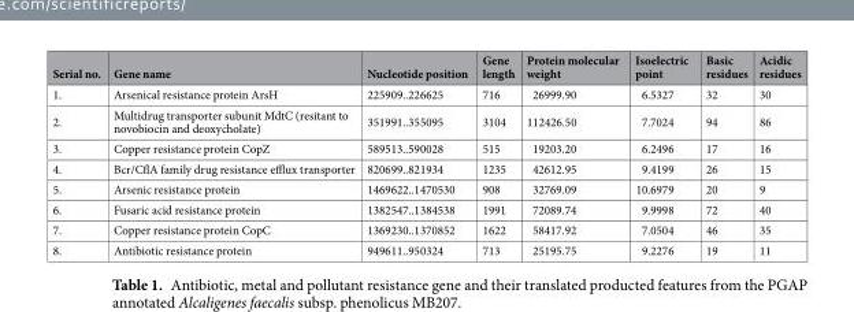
<table><thead><tr><td>Serial no.</td><td>Gene name</td><td>Nucleotide position</td><td>Gene length</td><td>Protein molecular weight</td><td>Isoelectric point</td><td>Basic residues</td><td>Acidic residues</td></tr></thead><tbody><tr><td>1.</td><td>Arsenical resistance protein ArsH</td><td>225909..226625</td><td>716</td><td>26999.90</td><td>6.5327</td><td>32</td><td>30</td></tr><tr><td>2.</td><td>Multidrug transporter subunit MdtC (resitant to novobiocin and deoxycholate)</td><td>351991..355095</td><td>3104</td><td>112426.50</td><td>7.7024</td><td>94</td><td>86</td></tr><tr><td>3.</td><td>Copper resistance protein CopZ</td><td>589513..590028</td><td>515</td><td>19203.20</td><td>6.2496</td><td>17</td><td>16</td></tr><tr><td>4.</td><td>Bcr/CflA family drug resistance efflux transporter</td><td>820699..821934</td><td>1235</td><td>42612.95</td><td>9.4199</td><td>26</td><td>15</td></tr><tr><td>5.</td><td>Arsenic resistance protein</td><td>1469622..1470530</td><td>908</td><td>32769.09</td><td>10.6979</td><td>20</td><td>9</td></tr><tr><td>6.</td><td>Fusaric acid resistance protein</td><td>1382547..1384538</td><td>1991</td><td>72089.74</td><td>9.9998</td><td>72</td><td>40</td></tr><tr><td>7.</td><td>Copper resistance protein CopC</td><td>1369230..1370852</td><td>1622</td><td>58417.92</td><td>7.0504</td><td>46</td><td>35</td></tr><tr><td>8.</td><td>Antibiotic resistance protein</td><td>949611..950324</td><td>713</td><td>25195.75</td><td>9.2276</td><td>19</td><td>11</td></tr></tbody></table>